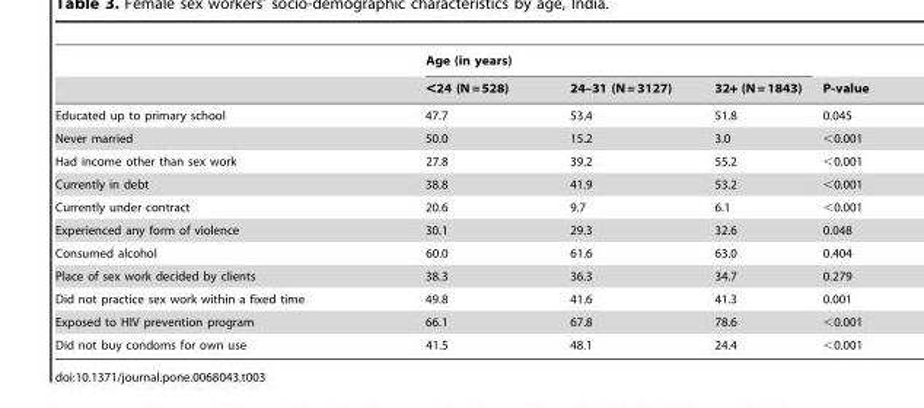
<table><thead><tr><td rowspan="2"></td><td colspan="3">Age (in years)</td><td rowspan="2">P-value</td></tr><tr><td>&lt;24 (N = 528)</td><td>24–31 (N = 3127)</td><td>32+ (N = 1843)</td></tr></thead><tbody><tr><td>Educated up to primary school</td><td>47.7</td><td>53.4</td><td>51.8</td><td>0.045</td></tr><tr><td>Never married</td><td>50.0</td><td>15.2</td><td>3.0</td><td>&lt;0.001</td></tr><tr><td>Had income other than sex work</td><td>27.8</td><td>39.2</td><td>55.2</td><td>&lt;0.001</td></tr><tr><td>Currently in debt</td><td>38.8</td><td>41.9</td><td>53.2</td><td>&lt;0.001</td></tr><tr><td>Currently under contract</td><td>20.6</td><td>9.7</td><td>6.1</td><td>&lt;0.001</td></tr><tr><td>Experienced any form of violence</td><td>30.1</td><td>29.3</td><td>32.6</td><td>0.048</td></tr><tr><td>Consumed alcohol</td><td>60.0</td><td>61.6</td><td>63.0</td><td>0.404</td></tr><tr><td>Place of sex work decided by clients</td><td>38.3</td><td>36.3</td><td>34.7</td><td>0.279</td></tr><tr><td>Did not practice sex work within a fixed time</td><td>49.8</td><td>41.6</td><td>41.3</td><td>0.001</td></tr><tr><td>Exposed to HIV prevention program</td><td>66.1</td><td>67.8</td><td>78.6</td><td>&lt;0.001</td></tr><tr><td>Did not buy condoms for own use</td><td>41.5</td><td>48.1</td><td>24.4</td><td>&lt;0.001</td></tr></tbody></table>